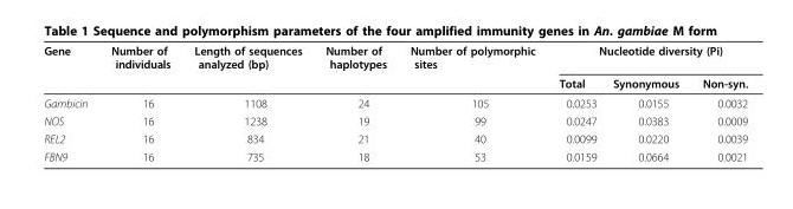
<table><thead><tr><td rowspan="2">Gene</td><td rowspan="2">Number of individuals</td><td rowspan="2">Length of sequences analyzed (bp)</td><td rowspan="2">Number of haplotypes</td><td rowspan="2">Number of polymorphic sites</td><td colspan="3">Nucleotide diversity (Pi)</td></tr><tr><td>Total</td><td>Synonymous</td><td>Non-syn.</td></tr></thead><tbody><tr><td>Gambicin</td><td>16</td><td>1108</td><td>24</td><td>105</td><td>0.0253</td><td>0.0155</td><td>0.0032</td></tr><tr><td>NOS</td><td>16</td><td>1238</td><td>19</td><td>99</td><td>0.0247</td><td>0.0383</td><td>0.0009</td></tr><tr><td>REL2</td><td>16</td><td>834</td><td>21</td><td>40</td><td>0.0099</td><td>0.0220</td><td>0.0039</td></tr><tr><td>FBN9</td><td>16</td><td>735</td><td>18</td><td>53</td><td>0.0159</td><td>0.0664</td><td>0.0021</td></tr></tbody></table>